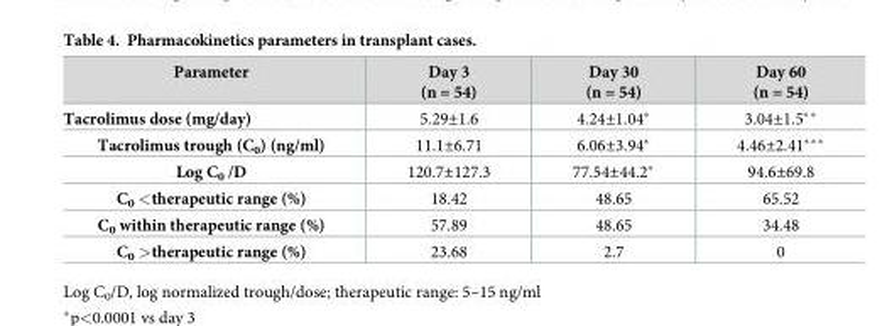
<table><thead><tr><td>Parameter</td><td>Day 3 (n = 54)</td><td>Day 30 (n = 54)</td><td>Day 60 (n = 54)</td></tr></thead><tbody><tr><td>Tacrolimus dose (mg/day)</td><td>5.29±1.6</td><td>4.24±1.04*</td><td>3.04±1.5**</td></tr><tr><td>Tacrolimus trough (C<sub>0</sub>) (ng/ml)</td><td>11.1±6.71</td><td>6.06±3.94*</td><td>4.46±2.41***</td></tr><tr><td>Log C<sub>0</sub> /D</td><td>120.7±127.3</td><td>77.54±44.2*</td><td>94.6±69.8</td></tr><tr><td>C<sub>0</sub> &lt;therapeutic range (%)</td><td>18.42</td><td>48.65</td><td>65.52</td></tr><tr><td>C<sub>0</sub> within therapeutic range (%)</td><td>57.89</td><td>48.65</td><td>34.48</td></tr><tr><td>C<sub>0</sub> &gt;therapeutic range (%)</td><td>23.68</td><td>2.7</td><td>0</td></tr></tbody></table>